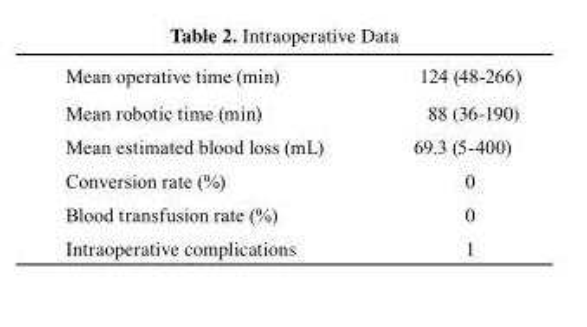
<table><tbody><tr><td>Mean operative time (min)</td><td>124 (48-266)</td></tr><tr><td>Mean robotic time (min)</td><td>88 (36-190)</td></tr><tr><td>Mean estimated blood loss (mL)</td><td>69.3 (5-400)</td></tr><tr><td>Conversion rate (%)</td><td>0</td></tr><tr><td>Blood transfusion rate (%)</td><td>0</td></tr><tr><td>Intraoperative complications</td><td>1</td></tr></tbody></table>